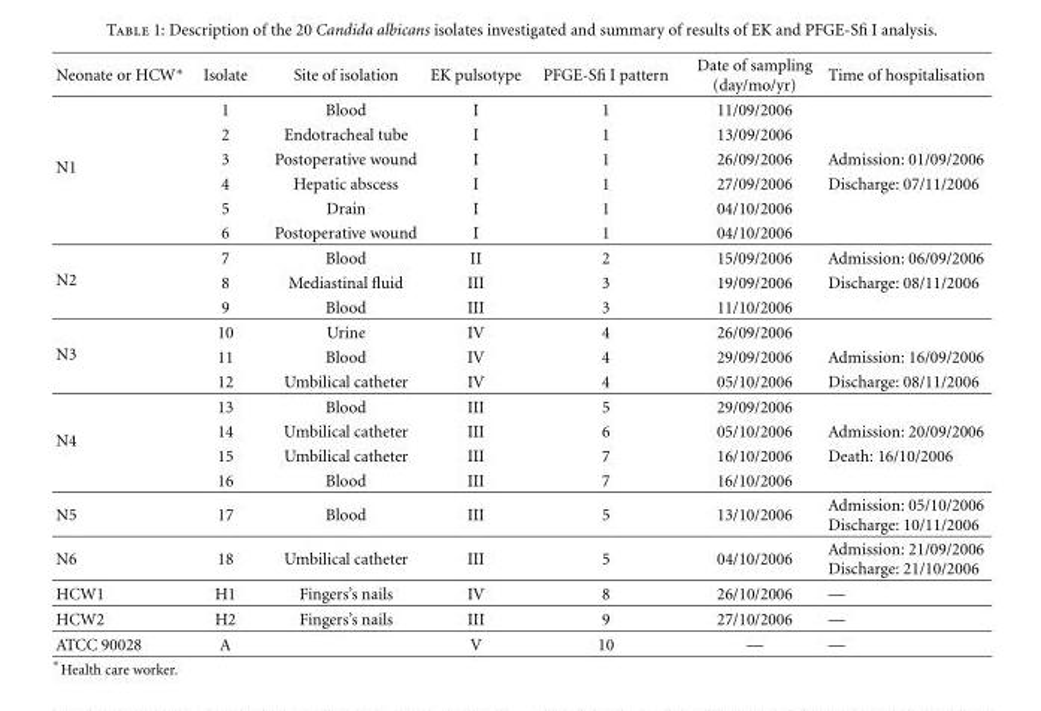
<table><thead><tr><td>Neonate or HCW∗</td><td>Isolate</td><td>Site of isolation</td><td>EK pulsotype</td><td>PFGE-Sfi I pattern</td><td>Date of sampling (day/mo/yr)</td><td>Time of hospitalisation</td></tr></thead><tbody><tr><td rowspan="6">N1</td><td>1</td><td>Blood</td><td>I</td><td>1</td><td>11/09/2006</td><td></td></tr><tr><td>2</td><td>Endotracheal tube</td><td>I</td><td>1</td><td>13/09/2006</td><td></td></tr><tr><td>3</td><td>Postoperative wound</td><td>I</td><td>1</td><td>26/09/2006</td><td>Admission: 01/09/2006</td></tr><tr><td>4</td><td>Hepatic abscess</td><td>I</td><td>1</td><td>27/09/2006</td><td>Discharge: 07/11/2006</td></tr><tr><td>5</td><td>Drain</td><td>I</td><td>1</td><td>04/10/2006</td><td></td></tr><tr><td>6</td><td>Postoperative wound</td><td>I</td><td>1</td><td>04/10/2006</td><td></td></tr><tr><td rowspan="3">N2</td><td>7</td><td>Blood</td><td>II</td><td>2</td><td>15/09/2006</td><td>Admission: 06/09/2006</td></tr><tr><td>8</td><td>Mediastinal fluid</td><td>III</td><td>3</td><td>19/09/2006</td><td>Discharge: 08/11/2006</td></tr><tr><td>9</td><td>Blood</td><td>III</td><td>3</td><td>11/10/2006</td><td></td></tr><tr><td rowspan="3">N3</td><td>10</td><td>Urine</td><td>IV</td><td>4</td><td>26/09/2006</td><td></td></tr><tr><td>11</td><td>Blood</td><td>IV</td><td>4</td><td>29/09/2006</td><td>Admission: 16/09/2006</td></tr><tr><td>12</td><td>Umbilical catheter</td><td>IV</td><td>4</td><td>05/10/2006</td><td>Discharge: 08/11/2006</td></tr><tr><td rowspan="4">N4</td><td>13</td><td>Blood</td><td>III</td><td>5</td><td>29/09/2006</td><td></td></tr><tr><td>14</td><td>Umbilical catheter</td><td>III</td><td>6</td><td>05/10/2006</td><td>Admission: 20/09/2006</td></tr><tr><td>15</td><td>Umbilical catheter</td><td>III</td><td>7</td><td>16/10/2006</td><td>Death: 16/10/2006</td></tr><tr><td>16</td><td>Blood</td><td>III</td><td>7</td><td>16/10/2006</td><td></td></tr><tr><td>N5</td><td>17</td><td>Blood</td><td>III</td><td>5</td><td>13/10/2006</td><td>Admission: 05/10/2006 Discharge: 10/11/2006</td></tr><tr><td>N6</td><td>18</td><td>Umbilical catheter</td><td>III</td><td>5</td><td>04/10/2006</td><td>Admission: 21/09/2006 Discharge: 21/10/2006</td></tr><tr><td>HCW1</td><td>H1</td><td>Fingers’s nails</td><td>IV</td><td>8</td><td>26/10/2006</td><td>—</td></tr><tr><td>HCW2</td><td>H2</td><td>Fingers’s nails</td><td>III</td><td>9</td><td>27/10/2006</td><td>—</td></tr><tr><td>ATCC 90028</td><td>A</td><td></td><td>V</td><td>10</td><td>—</td><td>—</td></tr></tbody></table>